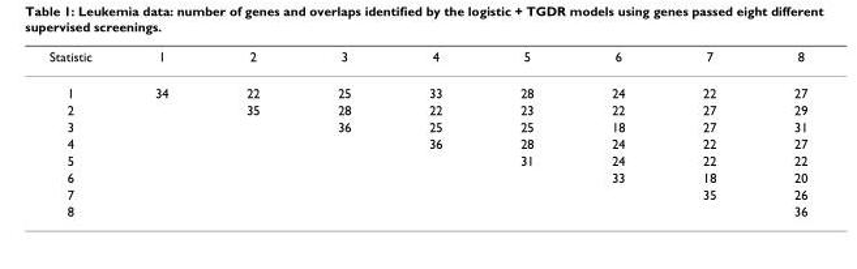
<table><thead><tr><td>Statistic</td><td>1</td><td>2</td><td>3</td><td>4</td><td>5</td><td>6</td><td>7</td><td>8</td></tr></thead><tbody><tr><td>1</td><td>34</td><td>22</td><td>25</td><td>33</td><td>28</td><td>24</td><td>22</td><td>27</td></tr><tr><td>2</td><td></td><td>35</td><td>28</td><td>22</td><td>23</td><td>22</td><td>27</td><td>29</td></tr><tr><td>3</td><td></td><td></td><td>36</td><td>25</td><td>25</td><td>18</td><td>27</td><td>31</td></tr><tr><td>4</td><td></td><td></td><td></td><td>36</td><td>28</td><td>24</td><td>22</td><td>27</td></tr><tr><td>5</td><td></td><td></td><td></td><td></td><td>31</td><td>24</td><td>22</td><td>22</td></tr><tr><td>6</td><td></td><td></td><td></td><td></td><td></td><td>33</td><td>18</td><td>20</td></tr><tr><td>7</td><td></td><td></td><td></td><td></td><td></td><td></td><td>35</td><td>26</td></tr><tr><td>8</td><td></td><td></td><td></td><td></td><td></td><td></td><td></td><td>36</td></tr></tbody></table>